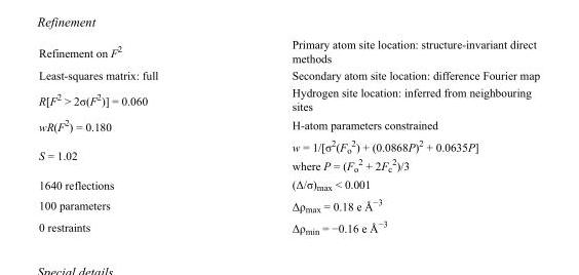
<table><tbody><tr><td>Refinement on F<sup>2</sup></td><td>Primary atom site location: structure-invariant direct methods</td></tr><tr><td>Least-squares matrix: full</td><td>Secondary atom site location: difference Fourier map</td></tr><tr><td>R[F<sup>2</sup> &gt; 2σ(F<sup>2</sup>)] = 0.060</td><td>Hydrogen site location: inferred from neighbouring sites</td></tr><tr><td>wR(F<sup>2</sup>) = 0.180</td><td>H-atom parameters constrained</td></tr><tr><td>S = 1.02</td><td>w = 1/[σ<sup>2</sup>(F<sub>o</sub> <sup>2</sup>) + (0.0868P)<sup>2</sup> + 0.0635P] where P = (F<sub>o</sub> <sup>2</sup> + 2F<sub>c</sub> <sup>2</sup>)/3</td></tr><tr><td>1640 reflections</td><td>(Δ/σ)<sub>max</sub> &lt; 0.001</td></tr><tr><td>100 parameters</td><td>Δρ<sub>max</sub> = 0.18 e Å<sup>−3</sup></td></tr><tr><td>0 restraints</td><td>Δρ<sub>min</sub> = −0.16 e Å<sup>−3</sup></td></tr></tbody></table>